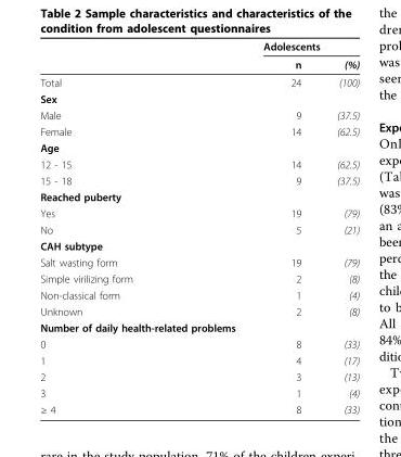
<table><thead><tr><td rowspan="2"></td><td colspan="2">Adolescents</td></tr><tr><td>n</td><td>(%)</td></tr></thead><tbody><tr><td>Total</td><td>24</td><td>(100)</td></tr><tr><td colspan="3">Sex</td></tr><tr><td>Male</td><td>9</td><td>(37.5)</td></tr><tr><td>Female</td><td>14</td><td>(62.5)</td></tr><tr><td colspan="3">Age</td></tr><tr><td>12 - 15</td><td>14</td><td>(62.5)</td></tr><tr><td>15 - 18</td><td>9</td><td>(37.5)</td></tr><tr><td colspan="3">Reached puberty</td></tr><tr><td>Yes</td><td>19</td><td>(79)</td></tr><tr><td>No</td><td>5</td><td>(21)</td></tr><tr><td colspan="3">CAH subtype</td></tr><tr><td>Salt wasting form</td><td>19</td><td>(79)</td></tr><tr><td>Simple virilizing form</td><td>2</td><td>(8)</td></tr><tr><td>Non-classical form</td><td>1</td><td>(4)</td></tr><tr><td>Unknown</td><td>2</td><td>(8)</td></tr><tr><td colspan="3">Number of daily health-related problems</td></tr><tr><td>0</td><td>8</td><td>(33)</td></tr><tr><td>1</td><td>4</td><td>(17)</td></tr><tr><td>2</td><td>3</td><td>(13)</td></tr><tr><td>3</td><td>1</td><td>(4)</td></tr><tr><td>≥ 4</td><td>8</td><td>(33)</td></tr></tbody></table>